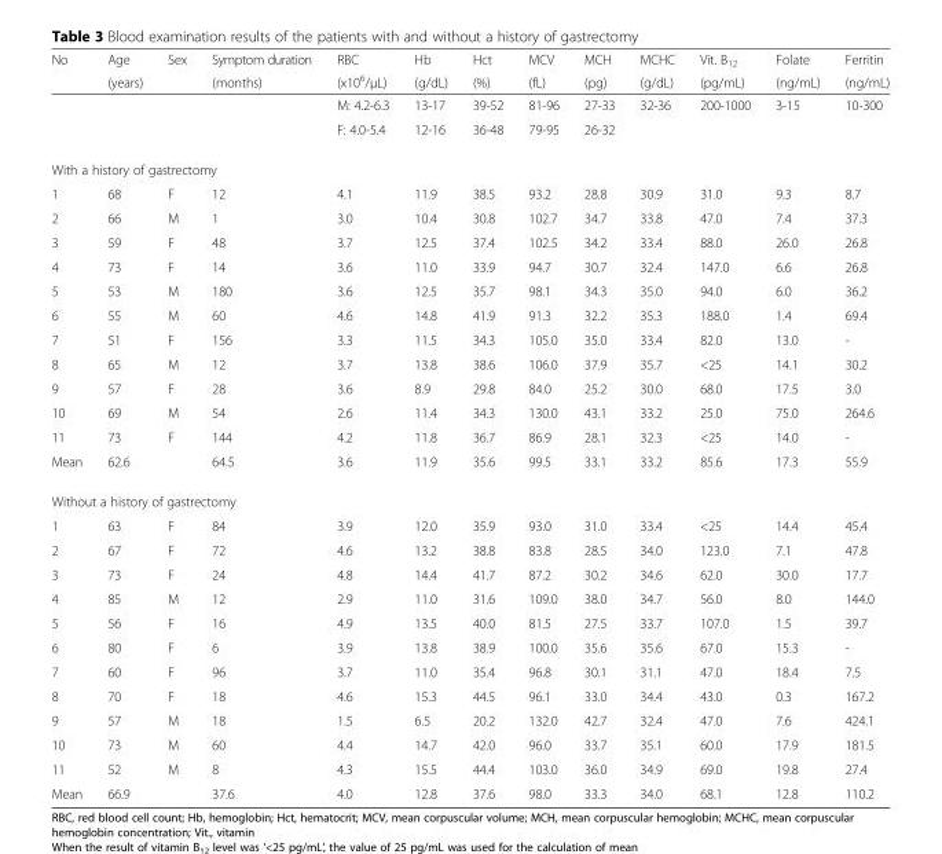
<table><thead><tr><td rowspan="2">No</td><td rowspan="2">Age (years)</td><td rowspan="2">Sex</td><td rowspan="2">Symptom duration (months)</td><td rowspan="2">RBC (x10<sup>6</sup>/μL)</td><td rowspan="2">Hb (g/dL)</td><td rowspan="2">Hct (%)</td><td rowspan="2">MCV (fL)</td><td rowspan="2">MCH (pg)</td><td rowspan="2">MCHC (g/dL)</td><td rowspan="2">Vit. B<sub>12</sub> (pg/mL)</td><td rowspan="2">Folate (ng/mL)</td><td rowspan="2">Ferritin (ng/mL)</td></tr><tr></tr></thead><tbody><tr><td></td><td></td><td></td><td></td><td>M: 4.2-6.3</td><td>13-17</td><td>39-52</td><td>81-96</td><td>27-33</td><td rowspan="2">32-36</td><td rowspan="2">200-1000</td><td rowspan="2">3-15</td><td rowspan="2">10-300</td></tr><tr><td></td><td></td><td></td><td></td><td>F: 4.0-5.4</td><td>12-16</td><td>36-48</td><td>79-95</td><td>26-32</td></tr><tr><td colspan="13">With a history of gastrectomy</td></tr><tr><td>1</td><td>68</td><td>F</td><td>12</td><td>4.1</td><td>11.9</td><td>38.5</td><td>93.2</td><td>28.8</td><td>30.9</td><td>31.0</td><td>9.3</td><td>8.7</td></tr><tr><td>2</td><td>66</td><td>M</td><td>1</td><td>3.0</td><td>10.4</td><td>30.8</td><td>102.7</td><td>34.7</td><td>33.8</td><td>47.0</td><td>7.4</td><td>37.3</td></tr><tr><td>3</td><td>59</td><td>F</td><td>48</td><td>3.7</td><td>12.5</td><td>37.4</td><td>102.5</td><td>34.2</td><td>33.4</td><td>88.0</td><td>26.0</td><td>26.8</td></tr><tr><td>4</td><td>73</td><td>F</td><td>14</td><td>3.6</td><td>11.0</td><td>33.9</td><td>94.7</td><td>30.7</td><td>32.4</td><td>147.0</td><td>6.6</td><td>26.8</td></tr><tr><td>5</td><td>53</td><td>M</td><td>180</td><td>3.6</td><td>12.5</td><td>35.7</td><td>98.1</td><td>34.3</td><td>35.0</td><td>94.0</td><td>6.0</td><td>36.2</td></tr><tr><td>6</td><td>55</td><td>M</td><td>60</td><td>4.6</td><td>14.8</td><td>41.9</td><td>91.3</td><td>32.2</td><td>35.3</td><td>188.0</td><td>1.4</td><td>69.4</td></tr><tr><td>7</td><td>51</td><td>F</td><td>156</td><td>3.3</td><td>11.5</td><td>34.3</td><td>105.0</td><td>35.0</td><td>33.4</td><td>82.0</td><td>13.0</td><td>-</td></tr><tr><td>8</td><td>65</td><td>M</td><td>12</td><td>3.7</td><td>13.8</td><td>38.6</td><td>106.0</td><td>37.9</td><td>35.7</td><td>&lt;25</td><td>14.1</td><td>30.2</td></tr><tr><td>9</td><td>57</td><td>F</td><td>28</td><td>3.6</td><td>8.9</td><td>29.8</td><td>84.0</td><td>25.2</td><td>30.0</td><td>68.0</td><td>17.5</td><td>3.0</td></tr><tr><td>10</td><td>69</td><td>M</td><td>54</td><td>2.6</td><td>11.4</td><td>34.3</td><td>130.0</td><td>43.1</td><td>33.2</td><td>25.0</td><td>75.0</td><td>264.6</td></tr><tr><td>11</td><td>73</td><td>F</td><td>144</td><td>4.2</td><td>11.8</td><td>36.7</td><td>86.9</td><td>28.1</td><td>32.3</td><td>&lt;25</td><td>14.0</td><td>-</td></tr><tr><td>Mean</td><td>62.6</td><td></td><td>64.5</td><td>3.6</td><td>11.9</td><td>35.6</td><td>99.5</td><td>33.1</td><td>33.2</td><td>85.6</td><td>17.3</td><td>55.9</td></tr><tr><td colspan="13">Without a history of gastrectomy</td></tr><tr><td>1</td><td>63</td><td>F</td><td>84</td><td>3.9</td><td>12.0</td><td>35.9</td><td>93.0</td><td>31.0</td><td>33.4</td><td>&lt;25</td><td>14.4</td><td>45.4</td></tr><tr><td>2</td><td>67</td><td>F</td><td>72</td><td>4.6</td><td>13.2</td><td>38.8</td><td>83.8</td><td>28.5</td><td>34.0</td><td>123.0</td><td>7.1</td><td>47.8</td></tr><tr><td>3</td><td>73</td><td>F</td><td>24</td><td>4.8</td><td>14.4</td><td>41.7</td><td>87.2</td><td>30.2</td><td>34.6</td><td>62.0</td><td>30.0</td><td>17.7</td></tr><tr><td>4</td><td>85</td><td>M</td><td>12</td><td>2.9</td><td>11.0</td><td>31.6</td><td>109.0</td><td>38.0</td><td>34.7</td><td>56.0</td><td>8.0</td><td>144.0</td></tr><tr><td>5</td><td>56</td><td>F</td><td>16</td><td>4.9</td><td>13.5</td><td>40.0</td><td>81.5</td><td>27.5</td><td>33.7</td><td>107.0</td><td>1.5</td><td>39.7</td></tr><tr><td>6</td><td>80</td><td>F</td><td>6</td><td>3.9</td><td>13.8</td><td>38.9</td><td>100.0</td><td>35.6</td><td>35.6</td><td>67.0</td><td>15.3</td><td>-</td></tr><tr><td>7</td><td>60</td><td>F</td><td>96</td><td>3.7</td><td>11.0</td><td>35.4</td><td>96.8</td><td>30.1</td><td>31.1</td><td>47.0</td><td>18.4</td><td>7.5</td></tr><tr><td>8</td><td>70</td><td>F</td><td>18</td><td>4.6</td><td>15.3</td><td>44.5</td><td>96.1</td><td>33.0</td><td>34.4</td><td>43.0</td><td>0.3</td><td>167.2</td></tr><tr><td>9</td><td>57</td><td>M</td><td>18</td><td>1.5</td><td>6.5</td><td>20.2</td><td>132.0</td><td>42.7</td><td>32.4</td><td>47.0</td><td>7.6</td><td>424.1</td></tr><tr><td>10</td><td>73</td><td>M</td><td>60</td><td>4.4</td><td>14.7</td><td>42.0</td><td>96.0</td><td>33.7</td><td>35.1</td><td>60.0</td><td>17.9</td><td>181.5</td></tr><tr><td>11</td><td>52</td><td>M</td><td>8</td><td>4.3</td><td>15.5</td><td>44.4</td><td>103.0</td><td>36.0</td><td>34.9</td><td>69.0</td><td>19.8</td><td>27.4</td></tr><tr><td>Mean</td><td>66.9</td><td></td><td>37.6</td><td>4.0</td><td>12.8</td><td>37.6</td><td>98.0</td><td>33.3</td><td>34.0</td><td>68.1</td><td>12.8</td><td>110.2</td></tr></tbody></table>